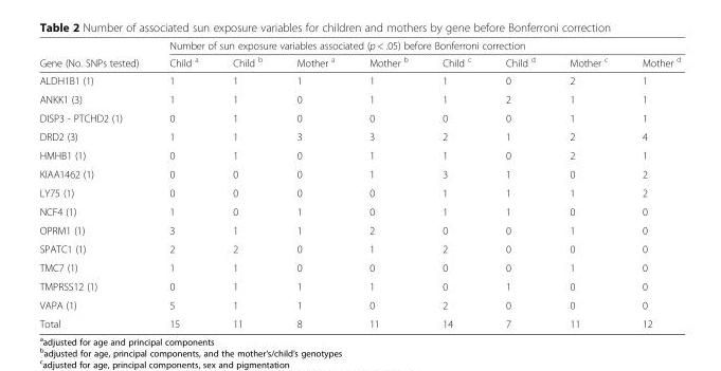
<table><thead><tr><td rowspan="2">Gene (No. SNPs tested)</td><td colspan="8">Number of sun exposure variables associated (p &lt; .05) before Bonferroni correction</td></tr><tr><td>Child <sup>a</sup></td><td>Child <sup>b</sup></td><td>Mother <sup>a</sup></td><td>Mother <sup>b</sup></td><td>Child <sup>c</sup></td><td>Child <sup>d</sup></td><td>Mother <sup>c</sup></td><td>Mother <sup>d</sup></td></tr></thead><tbody><tr><td>ALDH1B1 (1)</td><td>1</td><td>1</td><td>1</td><td>1</td><td>1</td><td>0</td><td>2</td><td>1</td></tr><tr><td>ANKK1 (3)</td><td>1</td><td>1</td><td>0</td><td>1</td><td>1</td><td>2</td><td>1</td><td>1</td></tr><tr><td>DISP3 - PTCHD2 (1)</td><td>0</td><td>1</td><td>0</td><td>0</td><td>0</td><td>0</td><td>1</td><td>1</td></tr><tr><td>DRD2 (3)</td><td>1</td><td>1</td><td>3</td><td>3</td><td>2</td><td>1</td><td>2</td><td>4</td></tr><tr><td>HMHB1 (1)</td><td>0</td><td>1</td><td>0</td><td>1</td><td>1</td><td>0</td><td>2</td><td>1</td></tr><tr><td>KIAA1462 (1)</td><td>0</td><td>0</td><td>0</td><td>1</td><td>3</td><td>1</td><td>0</td><td>2</td></tr><tr><td>LY75 (1)</td><td>0</td><td>0</td><td>0</td><td>0</td><td>1</td><td>1</td><td>1</td><td>2</td></tr><tr><td>NCF4 (1)</td><td>1</td><td>0</td><td>1</td><td>0</td><td>1</td><td>1</td><td>0</td><td>0</td></tr><tr><td>OPRM1 (1)</td><td>3</td><td>1</td><td>1</td><td>2</td><td>0</td><td>0</td><td>1</td><td>0</td></tr><tr><td>SPATC1 (1)</td><td>2</td><td>2</td><td>0</td><td>1</td><td>2</td><td>0</td><td>0</td><td>0</td></tr><tr><td>TMC7 (1)</td><td>1</td><td>1</td><td>0</td><td>0</td><td>0</td><td>0</td><td>1</td><td>0</td></tr><tr><td>TMPRSS12 (1)</td><td>0</td><td>1</td><td>1</td><td>1</td><td>0</td><td>1</td><td>0</td><td>0</td></tr><tr><td>VAPA (1)</td><td>5</td><td>1</td><td>1</td><td>0</td><td>2</td><td>0</td><td>0</td><td>0</td></tr><tr><td>Total</td><td>15</td><td>11</td><td>8</td><td>11</td><td>14</td><td>7</td><td>11</td><td>12</td></tr></tbody></table>